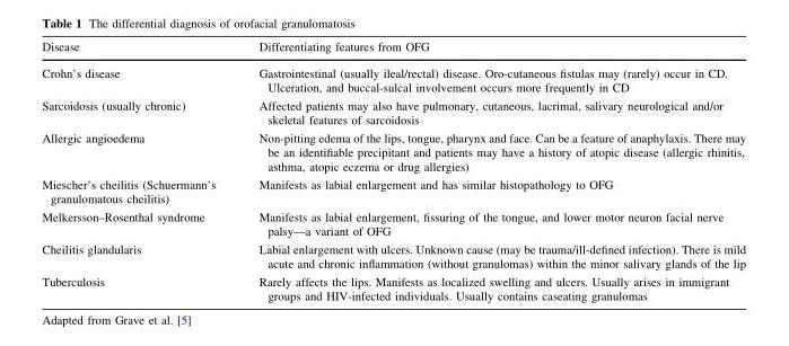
<table><thead><tr><td>Disease</td><td>Differentiating features from OFG</td></tr></thead><tbody><tr><td>Crohn’s disease</td><td>Gastrointestinal (usually ileal/rectal) disease. Oro-cutaneous fistulas may (rarely) occur in CD. Ulceration, and buccal-sulcal involvement occurs more frequently in CD</td></tr><tr><td>Sarcoidosis (usually chronic)</td><td>Affected patients may also have pulmonary, cutaneous, lacrimal, salivary neurological and/or skeletal features of sarcoidosis</td></tr><tr><td>Allergic angioedema</td><td>Non-pitting edema of the lips, tongue, pharynx and face. Can be a feature of anaphylaxis. There may be an identifiable precipitant and patients may have a history of atopic disease (allergic rhinitis, asthma, atopic eczema or drug allergies)</td></tr><tr><td>Miescher’s cheilitis (Schuermann’s granulomatous cheilitis)</td><td>Manifests as labial enlargement and has similar histopathology to OFG</td></tr><tr><td>Melkersson–Rosenthal syndrome</td><td>Manifests as labial enlargement, fissuring of the tongue, and lower motor neuron facial nerve palsy—a variant of OFG</td></tr><tr><td>Cheilitis glandularis</td><td>Labial enlargement with ulcers. Unknown cause (may be trauma/ill-defined infection). There is mild acute and chronic inflammation (without granulomas) within the minor salivary glands of the lip</td></tr><tr><td>Tuberculosis</td><td>Rarely affects the lips. Manifests as localized swelling and ulcers. Usually arises in immigrant groups and HIV-infected individuals. Usually contains caseating granulomas</td></tr></tbody></table>